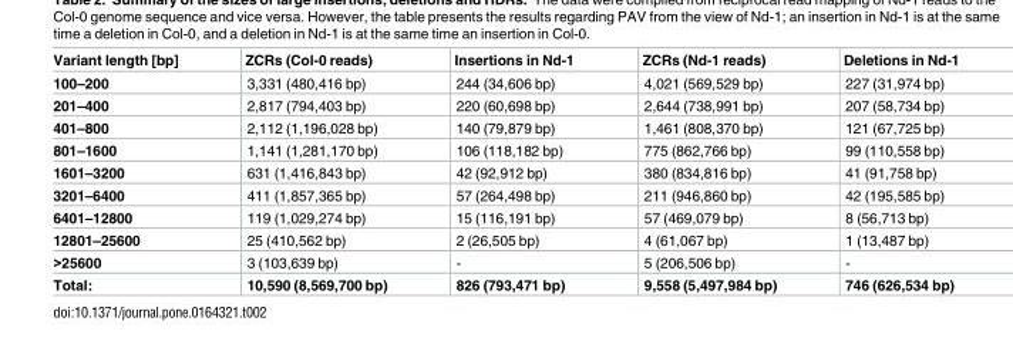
<table><thead><tr><td>Variant length [bp]</td><td>ZCRs (Col-0 reads)</td><td>Insertions in Nd-1</td><td>ZCRs (Nd-1 reads)</td><td>Deletions in Nd-1</td></tr></thead><tbody><tr><td>100–200</td><td>3,331 (480,416 bp)</td><td>244 (34,606 bp)</td><td>4,021 (569,529 bp)</td><td>227 (31,974 bp)</td></tr><tr><td>201–400</td><td>2,817 (794,403 bp)</td><td>220 (60,698 bp)</td><td>2,644 (738,991 bp)</td><td>207 (58,734 bp)</td></tr><tr><td>401–800</td><td>2,112 (1,196,028 bp)</td><td>140 (79,879 bp)</td><td>1,461 (808,370 bp)</td><td>121 (67,725 bp)</td></tr><tr><td>801–1600</td><td>1,141 (1,281,170 bp)</td><td>106 (118,182 bp)</td><td>775 (862,766 bp)</td><td>99 (110,558 bp)</td></tr><tr><td>1601–3200</td><td>631 (1,416,843 bp)</td><td>42 (92,912 bp)</td><td>380 (834,816 bp)</td><td>41 (91,758 bp)</td></tr><tr><td>3201–6400</td><td>411 (1,857,365 bp)</td><td>57 (264,498 bp)</td><td>211 (946,860 bp)</td><td>42 (195,585 bp)</td></tr><tr><td>6401–12800</td><td>119 (1,029,274 bp)</td><td>15 (116,191 bp)</td><td>57 (469,079 bp)</td><td>8 (56,713 bp)</td></tr><tr><td>12801–25600</td><td>25 (410,562 bp)</td><td>2 (26,505 bp)</td><td>4 (61,067 bp)</td><td>1 (13,487 bp)</td></tr><tr><td>&gt;25600</td><td>3 (103,639 bp)</td><td>-</td><td>5 (206,506 bp)</td><td>-</td></tr><tr><td>Total:</td><td>10,590 (8,569,700 bp)</td><td>826 (793,471 bp)</td><td>9,558 (5,497,984 bp)</td><td>746 (626,534 bp)</td></tr></tbody></table>